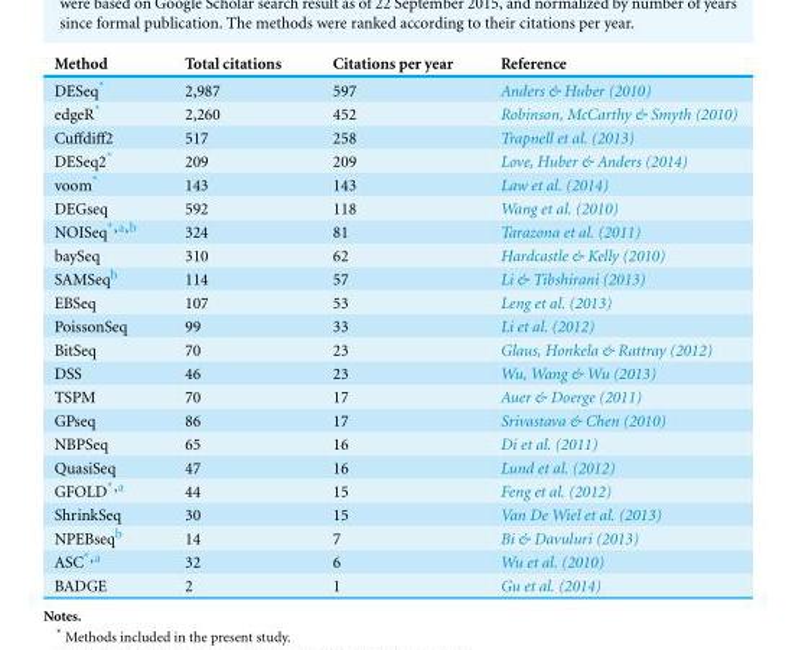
<table><thead><tr><td>Method</td><td>Total citations</td><td>Citations per year</td><td>Reference</td></tr></thead><tbody><tr><td>DESeq*</td><td>2,987</td><td>597</td><td>Anders &amp; Huber (2010)</td></tr><tr><td>edgeR*</td><td>2,260</td><td>452</td><td>Robinson, McCarthy &amp; Smyth (2010)</td></tr><tr><td>Cuffdiff2</td><td>517</td><td>258</td><td>Trapnell et al. (2013)</td></tr><tr><td>DESeq2*</td><td>209</td><td>209</td><td>Love, Huber &amp; Anders (2014)</td></tr><tr><td>voom*</td><td>143</td><td>143</td><td>Law et al. (2014)</td></tr><tr><td>DEGseq</td><td>592</td><td>118</td><td>Wang et al. (2010)</td></tr><tr><td>NOISeq<sup>*,a,b</sup></td><td>324</td><td>81</td><td>Tarazona et al. (2011)</td></tr><tr><td>baySeq</td><td>310</td><td>62</td><td>Hardcastle &amp; Kelly (2010)</td></tr><tr><td>SAMSeq<sup>b</sup></td><td>114</td><td>57</td><td>Li &amp; Tibshirani (2013)</td></tr><tr><td>EBSeq</td><td>107</td><td>53</td><td>Leng et al. (2013)</td></tr><tr><td>PoissonSeq</td><td>99</td><td>33</td><td>Li et al. (2012)</td></tr><tr><td>BitSeq</td><td>70</td><td>23</td><td>Glaus, Honkela &amp; Rattray (2012)</td></tr><tr><td>DSS</td><td>46</td><td>23</td><td>Wu, Wang &amp; Wu (2013)</td></tr><tr><td>TSPM</td><td>70</td><td>17</td><td>Auer &amp; Doerge (2011)</td></tr><tr><td>GPseq</td><td>86</td><td>17</td><td>Srivastava &amp; Chen (2010)</td></tr><tr><td>NBPSeq</td><td>65</td><td>16</td><td>Di et al. (2011)</td></tr><tr><td>QuasiSeq</td><td>47</td><td>16</td><td>Lund et al. (2012)</td></tr><tr><td>GFOLD<sup>*,a</sup></td><td>44</td><td>15</td><td>Feng et al. (2012)</td></tr><tr><td>ShrinkSeq</td><td>30</td><td>15</td><td>Van De Wiel et al. (2013)</td></tr><tr><td>NPEBseq<sup>b</sup></td><td>14</td><td>7</td><td>Bi &amp; Davuluri (2013)</td></tr><tr><td>ASC<sup>*,a</sup></td><td>32</td><td>6</td><td>Wu et al. (2010)</td></tr><tr><td>BADGE</td><td>2</td><td>1</td><td>Gu et al. (2014)</td></tr></tbody></table>